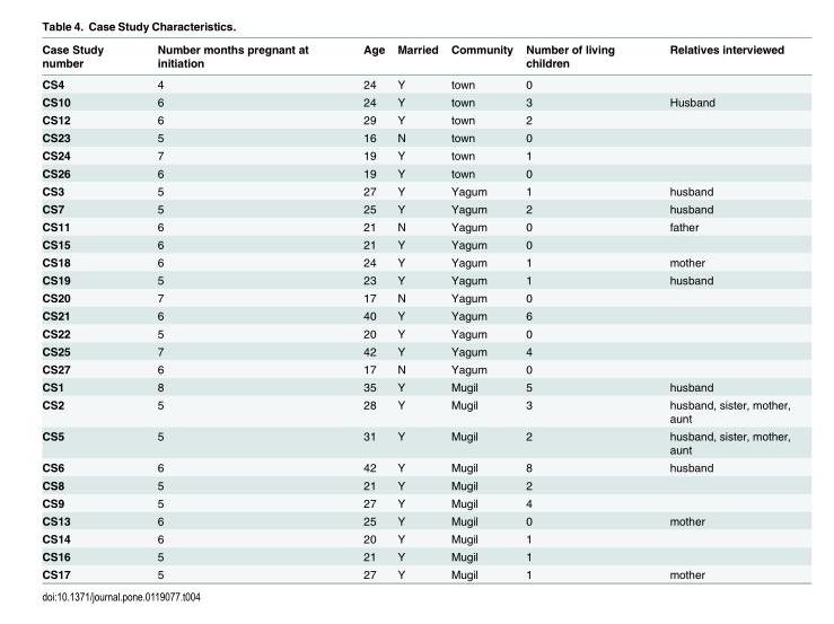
<table><thead><tr><td>Case Study number</td><td>Number months pregnant at initiation</td><td>Age</td><td>Married</td><td>Community</td><td>Number of living children</td><td>Relatives interviewed</td></tr></thead><tbody><tr><td>CS4</td><td>4</td><td>24</td><td>Y</td><td>town</td><td>0</td><td></td></tr><tr><td>CS10</td><td>6</td><td>24</td><td>Y</td><td>town</td><td>3</td><td>Husband</td></tr><tr><td>CS12</td><td>6</td><td>29</td><td>Y</td><td>town</td><td>2</td><td></td></tr><tr><td>CS23</td><td>5</td><td>16</td><td>N</td><td>town</td><td>0</td><td></td></tr><tr><td>CS24</td><td>7</td><td>19</td><td>Y</td><td>town</td><td>1</td><td></td></tr><tr><td>CS26</td><td>6</td><td>19</td><td>Y</td><td>town</td><td>0</td><td></td></tr><tr><td>CS3</td><td>5</td><td>27</td><td>Y</td><td>Yagum</td><td>1</td><td>husband</td></tr><tr><td>CS7</td><td>5</td><td>25</td><td>Y</td><td>Yagum</td><td>2</td><td>husband</td></tr><tr><td>CS11</td><td>6</td><td>21</td><td>N</td><td>Yagum</td><td>0</td><td>father</td></tr><tr><td>CS15</td><td>6</td><td>21</td><td>Y</td><td>Yagum</td><td>0</td><td></td></tr><tr><td>CS18</td><td>6</td><td>24</td><td>Y</td><td>Yagum</td><td>1</td><td>mother</td></tr><tr><td>CS19</td><td>5</td><td>23</td><td>Y</td><td>Yagum</td><td>1</td><td>husband</td></tr><tr><td>CS20</td><td>7</td><td>17</td><td>N</td><td>Yagum</td><td>0</td><td></td></tr><tr><td>CS21</td><td>6</td><td>40</td><td>Y</td><td>Yagum</td><td>6</td><td></td></tr><tr><td>CS22</td><td>5</td><td>20</td><td>Y</td><td>Yagum</td><td>0</td><td></td></tr><tr><td>CS25</td><td>7</td><td>42</td><td>Y</td><td>Yagum</td><td>4</td><td></td></tr><tr><td>CS27</td><td>6</td><td>17</td><td>N</td><td>Yagum</td><td>0</td><td></td></tr><tr><td>CS1</td><td>8</td><td>35</td><td>Y</td><td>Mugil</td><td>5</td><td>husband</td></tr><tr><td>CS2</td><td>5</td><td>28</td><td>Y</td><td>Mugil</td><td>3</td><td>husband, sister, mother, aunt</td></tr><tr><td>CS5</td><td>5</td><td>31</td><td>Y</td><td>Mugil</td><td>2</td><td>husband, sister, mother, aunt</td></tr><tr><td>CS6</td><td>6</td><td>42</td><td>Y</td><td>Mugil</td><td>8</td><td>husband</td></tr><tr><td>CS8</td><td>5</td><td>21</td><td>Y</td><td>Mugil</td><td>2</td><td></td></tr><tr><td>CS9</td><td>5</td><td>27</td><td>Y</td><td>Mugil</td><td>4</td><td></td></tr><tr><td>CS13</td><td>6</td><td>25</td><td>Y</td><td>Mugil</td><td>0</td><td>mother</td></tr><tr><td>CS14</td><td>6</td><td>20</td><td>Y</td><td>Mugil</td><td>1</td><td></td></tr><tr><td>CS16</td><td>5</td><td>21</td><td>Y</td><td>Mugil</td><td>1</td><td></td></tr><tr><td>CS17</td><td>5</td><td>27</td><td>Y</td><td>Mugil</td><td>1</td><td>mother</td></tr></tbody></table>